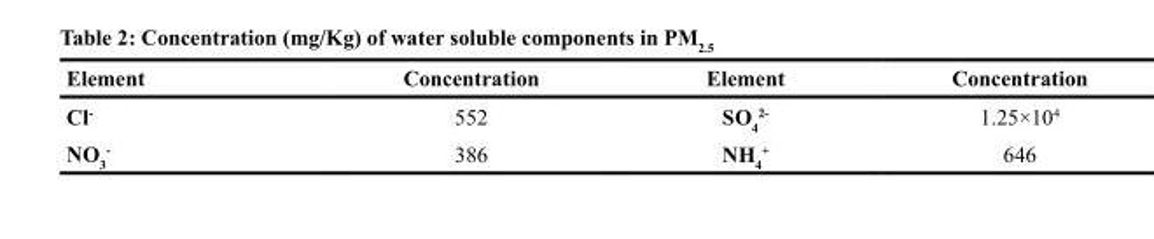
<table><thead><tr><td>Element</td><td>Concentration</td><td>Element</td><td>Concentration</td></tr></thead><tbody><tr><td>Cl<sup>-</sup></td><td>552</td><td>SO<sub>4</sub> <sup>2-</sup></td><td>1.25×10<sup>4</sup></td></tr><tr><td>NO<sub>3</sub> <sup>-</sup></td><td>386</td><td>NH<sub>4</sub> <sup>+</sup></td><td>646</td></tr></tbody></table>